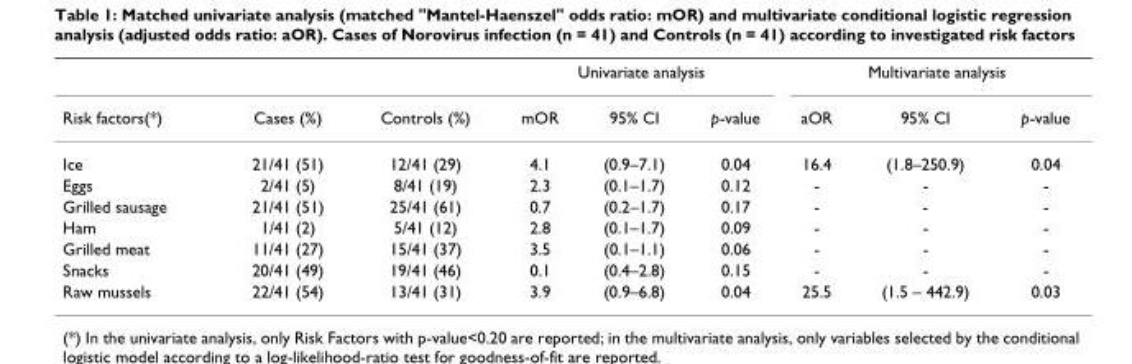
<table><thead><tr><td rowspan="2">Risk factors(*)</td><td rowspan="2">Cases (%)</td><td rowspan="2">Controls (%)</td><td colspan="3">Univariate analysis</td><td colspan="3">Multivariate analysis</td></tr><tr><td>mOR</td><td>95% CI</td><td>p-value</td><td>aOR</td><td>95% CI</td><td>p-value</td></tr></thead><tbody><tr><td>Ice</td><td>21/41 (51)</td><td>12/41 (29)</td><td>4.1</td><td>(0.9–7.1)</td><td>0.04</td><td>16.4</td><td>(1.8–250.9)</td><td>0.04</td></tr><tr><td>Eggs</td><td>2/41 (5)</td><td>8/41 (19)</td><td>2.3</td><td>(0.1–1.7)</td><td>0.12</td><td>-</td><td>-</td><td>-</td></tr><tr><td>Grilled sausage</td><td>21/41 (51)</td><td>25/41 (61)</td><td>0.7</td><td>(0.2–1.7)</td><td>0.17</td><td>-</td><td>-</td><td>-</td></tr><tr><td>Ham</td><td>1/41 (2)</td><td>5/41 (12)</td><td>2.8</td><td>(0.1–1.7)</td><td>0.09</td><td>-</td><td>-</td><td>-</td></tr><tr><td>Grilled meat</td><td>11/41 (27)</td><td>15/41 (37)</td><td>3.5</td><td>(0.1–1.1)</td><td>0.06</td><td>-</td><td>-</td><td>-</td></tr><tr><td>Snacks</td><td>20/41 (49)</td><td>19/41 (46)</td><td>0.1</td><td>(0.4–2.8)</td><td>0.15</td><td>-</td><td>-</td><td>-</td></tr><tr><td>Raw mussels</td><td>22/41 (54)</td><td>13/41 (31)</td><td>3.9</td><td>(0.9–6.8)</td><td>0.04</td><td>25.5</td><td>(1.5 – 442.9)</td><td>0.03</td></tr></tbody></table>